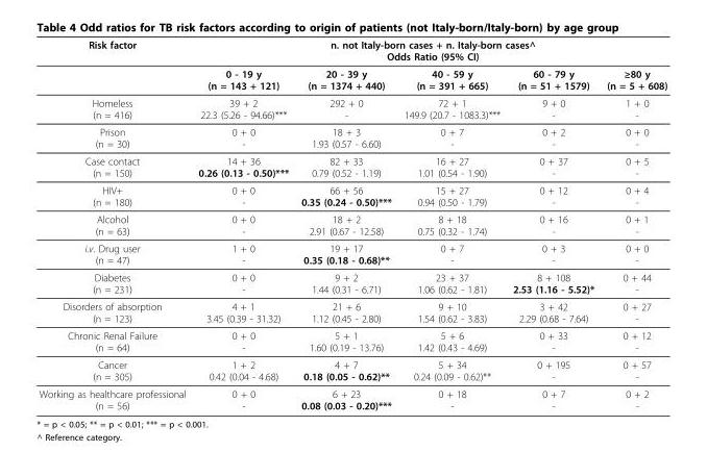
<table><thead><tr><td rowspan="2">Risk factor</td><td colspan="5">n. not Italy-born cases + n. Italy-born cases^ Odds Ratio (95% CI)</td></tr><tr><td>0 - 19 y (n = 143 + 121)</td><td>20 - 39 y (n = 1374 + 440)</td><td>40 - 59 y (n = 391 + 665)</td><td>60 - 79 y (n = 51 + 1579)</td><td>≥80 y (n = 5 + 608)</td></tr></thead><tbody><tr><td>Homeless (n = 416)</td><td>39 + 2 22.3 (5.26 - 94.66)***</td><td>292 + 0 -</td><td>72 + 1 149.9 (20.7 - 1083.3)***</td><td>9 + 0 -</td><td>1 + 0 -</td></tr><tr><td>Prison (n = 30)</td><td>0 + 0 -</td><td>18 + 3 1.93 (0.57 - 6.60)</td><td>0 + 7 -</td><td>0 + 2 -</td><td>0 + 0 -</td></tr><tr><td>Case contact (n = 150)</td><td>14 + 36 0.26 (0.13 - 0.50)***</td><td>82 + 33 0.79 (0.52 - 1.19)</td><td>16 + 27 1.01 (0.54 - 1.90)</td><td>0 + 37 -</td><td>0 + 5 -</td></tr><tr><td>HIV+ (n = 180)</td><td>0 + 0 -</td><td>66 + 56 0.35 (0.24 - 0.50)***</td><td>15 + 27 0.94 (0.50 - 1.79)</td><td>0 + 12 -</td><td>0 + 4 -</td></tr><tr><td>Alcohol (n = 63)</td><td>0 + 0 -</td><td>18 + 2 2.91 (0.67 - 12.58)</td><td>8 + 18 0.75 (0.32 - 1.74)</td><td>0 + 16 -</td><td>0 + 1 -</td></tr><tr><td>i.v. Drug user (n = 47)</td><td>1 + 0 -</td><td>19 + 17 0.35 (0.18 - 0.68)**</td><td>0 + 7 -</td><td>0 + 3 -</td><td>0 + 0 -</td></tr><tr><td>Diabetes (n = 231)</td><td>0 + 0 -</td><td>9 + 2 1.44 (0.31 - 6.71)</td><td>23 + 37 1.06 (0.62 - 1.81)</td><td>8 + 108 2.53 (1.16 - 5.52)*</td><td>0 + 44 -</td></tr><tr><td>Disorders of absorption (n = 123)</td><td>4 + 1 3.45 (0.39 - 31.32)</td><td>21 + 6 1.12 (0.45 - 2.80)</td><td>9 + 10 1.54 (0.62 - 3.83)</td><td>3 + 42 2.29 (0.68 - 7.64)</td><td>0 + 27 -</td></tr><tr><td>Chronic Renal Failure (n = 64)</td><td>0 + 0 -</td><td>5 + 1 1.60 (0.19 - 13.76)</td><td>5 + 6 1.42 (0.43 - 4.69)</td><td>0 + 33 -</td><td>0 + 12 -</td></tr><tr><td>Cancer (n = 305)</td><td>1 + 2 0.42 (0.04 - 4.68)</td><td>4 + 7 0.18 (0.05 - 0.62)**</td><td>5 + 34 0.24 (0.09 - 0.62)**</td><td>0 + 195 -</td><td>0 + 57 -</td></tr><tr><td>Working as healthcare professional (n = 56)</td><td>0 + 0 -</td><td>6 + 23 0.08 (0.03 - 0.20)***</td><td>0 + 18 -</td><td>0 + 7 -</td><td>0 + 2 -</td></tr></tbody></table>